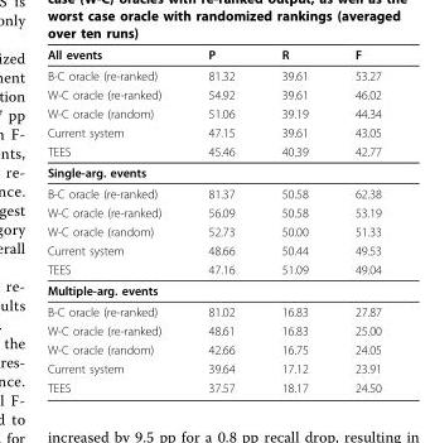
<table><thead><tr><td>All events</td><td>P</td><td>R</td><td>F</td></tr></thead><tbody><tr><td>B-C oracle (re-ranked)</td><td>81.32</td><td>39.61</td><td>53.27</td></tr><tr><td>W-C oracle (re-ranked)</td><td>54.92</td><td>39.61</td><td>46.02</td></tr><tr><td>W-C oracle (random)</td><td>51.06</td><td>39.19</td><td>44.34</td></tr><tr><td>Current system</td><td>47.15</td><td>39.61</td><td>43.05</td></tr><tr><td>TEES</td><td>45.46</td><td>40.39</td><td>42.77</td></tr><tr><td colspan="4">Single-arg. events</td></tr><tr><td>B-C oracle (re-ranked)</td><td>81.37</td><td>50.58</td><td>62.38</td></tr><tr><td>W-C oracle (re-ranked)</td><td>56.09</td><td>50.58</td><td>53.19</td></tr><tr><td>W-C oracle (random)</td><td>52.73</td><td>50.00</td><td>51.33</td></tr><tr><td>Current system</td><td>48.66</td><td>50.44</td><td>49.53</td></tr><tr><td>TEES</td><td>47.16</td><td>51.09</td><td>49.04</td></tr><tr><td colspan="4">Multiple-arg. events</td></tr><tr><td>B-C oracle (re-ranked)</td><td>81.02</td><td>16.83</td><td>27.87</td></tr><tr><td>W-C oracle (re-ranked)</td><td>48.61</td><td>16.83</td><td>25.00</td></tr><tr><td>W-C oracle (random)</td><td>42.66</td><td>16.75</td><td>24.05</td></tr><tr><td>Current system</td><td>39.64</td><td>17.12</td><td>23.91</td></tr><tr><td>TEES</td><td>37.57</td><td>18.17</td><td>24.50</td></tr></tbody></table>